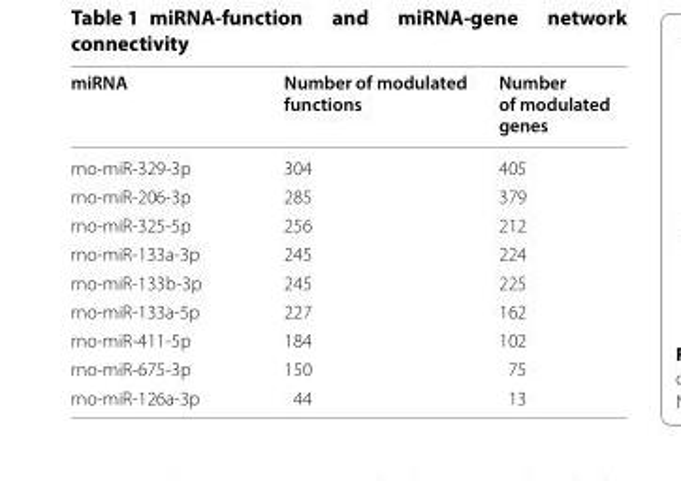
<table><thead><tr><td>miRNA</td><td>Number of modulated functions</td><td>Number of modulated genes</td></tr></thead><tbody><tr><td>rno-miR-329-3p</td><td>304</td><td>405</td></tr><tr><td>rno-miR-206-3p</td><td>285</td><td>379</td></tr><tr><td>rno-miR-325-5p</td><td>256</td><td>212</td></tr><tr><td>rno-miR-133a-3p</td><td>245</td><td>224</td></tr><tr><td>rno-miR-133b-3p</td><td>245</td><td>225</td></tr><tr><td>rno-miR-133a-5p</td><td>227</td><td>162</td></tr><tr><td>rno-miR-411-5p</td><td>184</td><td>102</td></tr><tr><td>rno-miR-675-3p</td><td>150</td><td>75</td></tr><tr><td>rno-miR-126a-3p</td><td>44</td><td>13</td></tr></tbody></table>